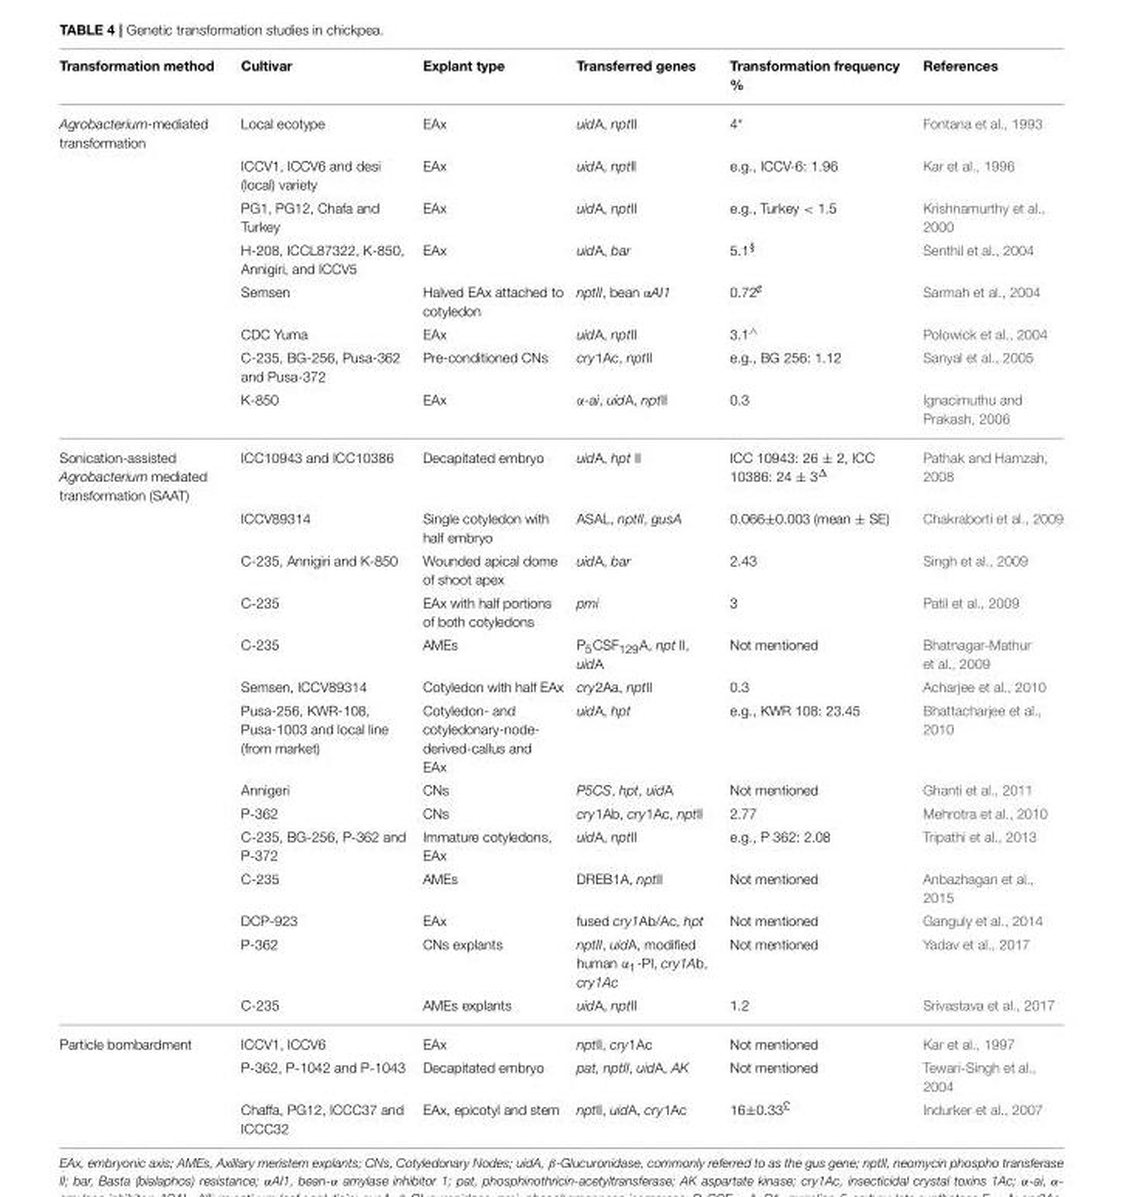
<table><thead><tr><td>Transformation method</td><td>Cultivar</td><td>Explant type</td><td>Transferred genes</td><td>Transformation frequency %</td><td>References</td></tr></thead><tbody><tr><td rowspan="8">Agrobacterium-mediated transformation</td><td>Local ecotype</td><td>EAx</td><td>uidA, nptII</td><td>4*</td><td>Fontana et al., 1993</td></tr><tr><td>ICCV1, ICCV6 and desi (local) variety</td><td>EAx</td><td>uidA, nptlI</td><td>e.g., ICCV-6: 1.96</td><td>Kar et al., 1996</td></tr><tr><td>PG1, PG12, Chafa and Turkey</td><td>EAx</td><td>uidA, nptII</td><td>e.g., Turkey &lt; 1.5</td><td>Krishnamurthy et al., 2000</td></tr><tr><td>H-208, ICCL87322, K-850, Annigiri, and ICCV5</td><td>EAx</td><td>uidA, bar</td><td>5.1<sup>§</sup></td><td>Senthil et al., 2004</td></tr><tr><td>Semsen</td><td>Halved EAx attached to cotyledon</td><td>nptII, bean αAI1</td><td>0.72/c</td><td>Sarmah et al., 2004</td></tr><tr><td>CDC Yuma</td><td>EAx</td><td>uidA, nptII</td><td>3.1<sup>∧</sup></td><td>Polowick et al., 2004</td></tr><tr><td>C-235, BG-256, Pusa-362 and Pusa-372</td><td>Pre-conditioned CNs</td><td>cry1Ac, nptII</td><td>e.g., BG 256: 1.12</td><td>Sanyal et al., 2005</td></tr><tr><td>K-850</td><td>EAx</td><td>α-ai, uidA, nptII</td><td>0.3</td><td>Ignacimuthu and Prakash, 2006</td></tr><tr><td rowspan="14">Sonication-assisted Agrobacterium mediated transformation (SAAT)</td><td>ICC10943 and ICC10386</td><td>Decapitated embryo</td><td>uidA, hpt II</td><td>ICC 10943: 26 ± 2, ICC 10386: 24 ± 3<sup>Δ</sup></td><td>Pathak and Hamzah, 2008</td></tr><tr><td>ICCV89314</td><td>Single cotyledon with half embryo</td><td>ASAL, nptII, gusA</td><td>0.066±0.003 (mean ± SE)</td><td>Chakraborti et al., 2009</td></tr><tr><td>C-235, Annigiri and K-850</td><td>Wounded apical dome of shoot apex</td><td>uidA, bar</td><td>2.43</td><td>Singh et al., 2009</td></tr><tr><td>C-235</td><td>EAx with half portions of both cotyledons</td><td>pmi</td><td>3</td><td>Patil et al., 2009</td></tr><tr><td>C-235</td><td>AMEs</td><td>P<sub>5</sub>CSF<sub>129</sub>A, npt II, uidA</td><td>Not mentioned</td><td>Bhatnagar-Mathur et al., 2009</td></tr><tr><td>Semsen, ICCV89314</td><td>Cotyledon with half EAx</td><td>cry2Aa, nptII</td><td>0.3</td><td>Acharjee et al., 2010</td></tr><tr><td>Pusa-256, KWR-108, Pusa-1003 and local line (from market)</td><td>Cotyledon- and cotyledonary-node- derived-callus and EAx</td><td>uidA, hpt</td><td>e.g., KWR 108: 23.45</td><td>Bhattacharjee et al., 2010</td></tr><tr><td>Annigeri</td><td>CNs</td><td>P5CS, hpt, uidA</td><td>Not mentioned</td><td>Ghanti et al., 2011</td></tr><tr><td>P-362</td><td>CNs</td><td>cry1Ab, cry1Ac, nptII</td><td>2.77</td><td>Mehrotra et al., 2010</td></tr><tr><td>C-235, BG-256, P-362 and P-372</td><td>Immature cotyledons, EAx</td><td>uidA, nptII</td><td>e.g., P 362: 2.08</td><td>Tripathi et al., 2013</td></tr><tr><td>C-235</td><td>AMEs</td><td>DREB1A, nptII</td><td>Not mentioned</td><td>Anbazhagan et al., 2015</td></tr><tr><td>DCP-923</td><td>EAx</td><td>fused cry1Ab/Ac, hpt</td><td>Not mentioned</td><td>Ganguly et al., 2014</td></tr><tr><td>P-362</td><td>CNs explants</td><td>nptII, uidA, modified human α<sub>1</sub>-PI, cry1Ab, cry1Ac</td><td>Not mentioned</td><td>Yadav et al., 2017</td></tr><tr><td>C-235</td><td>AMEs explants</td><td>uidA, nptII</td><td>1.2</td><td>Srivastava et al., 2017</td></tr><tr><td rowspan="3">Particle bombardment</td><td>ICCV1, ICCV6</td><td>EAx</td><td>nptII, cry1Ac</td><td>Not mentioned</td><td>Kar et al., 1997</td></tr><tr><td>P-362, P-1042 and P-1043</td><td>Decapitated embryo</td><td>pat, nptII, uidA, AK</td><td>Not mentioned</td><td>Tewari-Singh et al., 2004</td></tr><tr><td>Chaffa, PG12, ICCC37 and ICCC32</td><td>EAx, epicotyl and stem</td><td>nptII, uidA, cry1Ac</td><td>16±0.33<sup>£</sup></td><td>Indurker et al., 2007</td></tr></tbody></table>